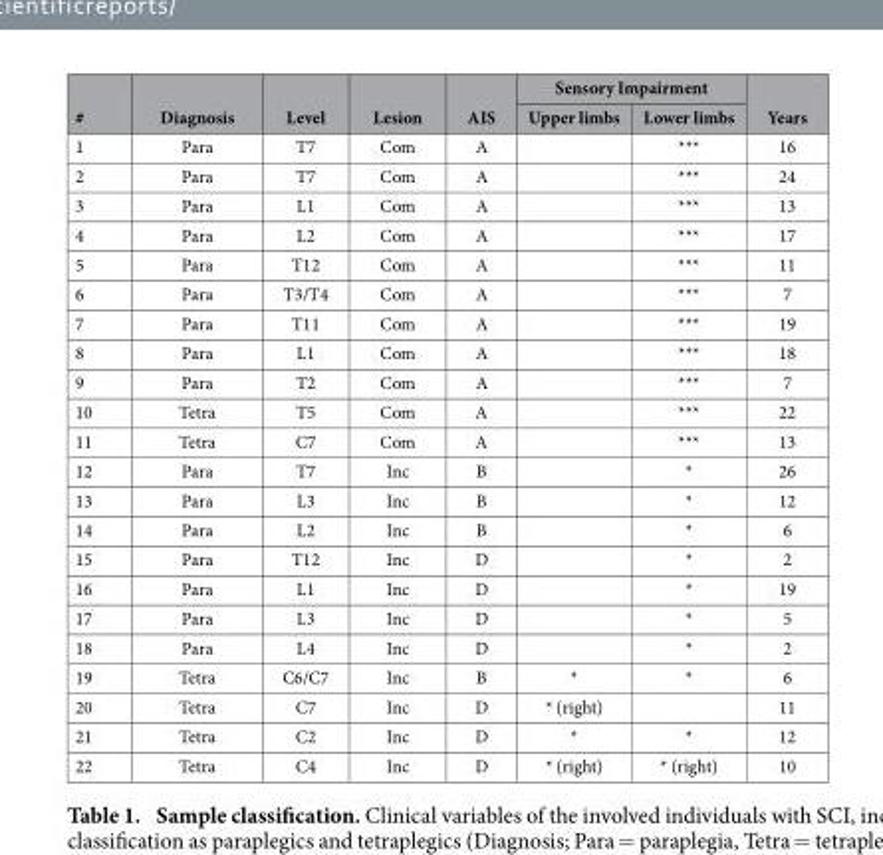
<table><thead><tr><td rowspan="2">#</td><td rowspan="2">Diagnosis</td><td rowspan="2">Level</td><td rowspan="2">Lesion</td><td rowspan="2">AIS</td><td colspan="2">Sensory Impairment</td><td rowspan="2">Years</td></tr><tr><td>Upper limbs</td><td>Lower limbs</td></tr></thead><tbody><tr><td>1</td><td>Para</td><td>T7</td><td>Com</td><td>A</td><td></td><td>***</td><td>16</td></tr><tr><td>2</td><td>Para</td><td>T7</td><td>Com</td><td>A</td><td></td><td>***</td><td>24</td></tr><tr><td>3</td><td>Para</td><td>L1</td><td>Com</td><td>A</td><td></td><td>***</td><td>13</td></tr><tr><td>4</td><td>Para</td><td>L2</td><td>Com</td><td>A</td><td></td><td>***</td><td>17</td></tr><tr><td>5</td><td>Para</td><td>T12</td><td>Com</td><td>A</td><td></td><td>***</td><td>11</td></tr><tr><td>6</td><td>Para</td><td>T3/T4</td><td>Com</td><td>A</td><td></td><td>***</td><td>7</td></tr><tr><td>7</td><td>Para</td><td>T11</td><td>Com</td><td>A</td><td></td><td>***</td><td>19</td></tr><tr><td>8</td><td>Para</td><td>L1</td><td>Com</td><td>A</td><td></td><td>***</td><td>18</td></tr><tr><td>9</td><td>Para</td><td>T2</td><td>Com</td><td>A</td><td></td><td>***</td><td>7</td></tr><tr><td>10</td><td>Tetra</td><td>T5</td><td>Com</td><td>A</td><td></td><td>***</td><td>22</td></tr><tr><td>11</td><td>Tetra</td><td>C7</td><td>Com</td><td>A</td><td></td><td>***</td><td>13</td></tr><tr><td>12</td><td>Para</td><td>T7</td><td>Inc</td><td>B</td><td></td><td>*</td><td>26</td></tr><tr><td>13</td><td>Para</td><td>L3</td><td>Inc</td><td>B</td><td></td><td>*</td><td>12</td></tr><tr><td>14</td><td>Para</td><td>L2</td><td>Inc</td><td>B</td><td></td><td>*</td><td>6</td></tr><tr><td>15</td><td>Para</td><td>T12</td><td>Inc</td><td>D</td><td></td><td>*</td><td>2</td></tr><tr><td>16</td><td>Para</td><td>L1</td><td>Inc</td><td>D</td><td></td><td>*</td><td>19</td></tr><tr><td>17</td><td>Para</td><td>L3</td><td>Inc</td><td>D</td><td></td><td>*</td><td>5</td></tr><tr><td>18</td><td>Para</td><td>L4</td><td>Inc</td><td>D</td><td></td><td>*</td><td>2</td></tr><tr><td>19</td><td>Tetra</td><td>C6/C7</td><td>Inc</td><td>B</td><td>*</td><td>*</td><td>6</td></tr><tr><td>20</td><td>Tetra</td><td>C7</td><td>Inc</td><td>D</td><td>* (right)</td><td></td><td>11</td></tr><tr><td>21</td><td>Tetra</td><td>C2</td><td>Inc</td><td>D</td><td>*</td><td>*</td><td>12</td></tr><tr><td>22</td><td>Tetra</td><td>C4</td><td>Inc</td><td>D</td><td>* (right)</td><td>* (right)</td><td>10</td></tr></tbody></table>